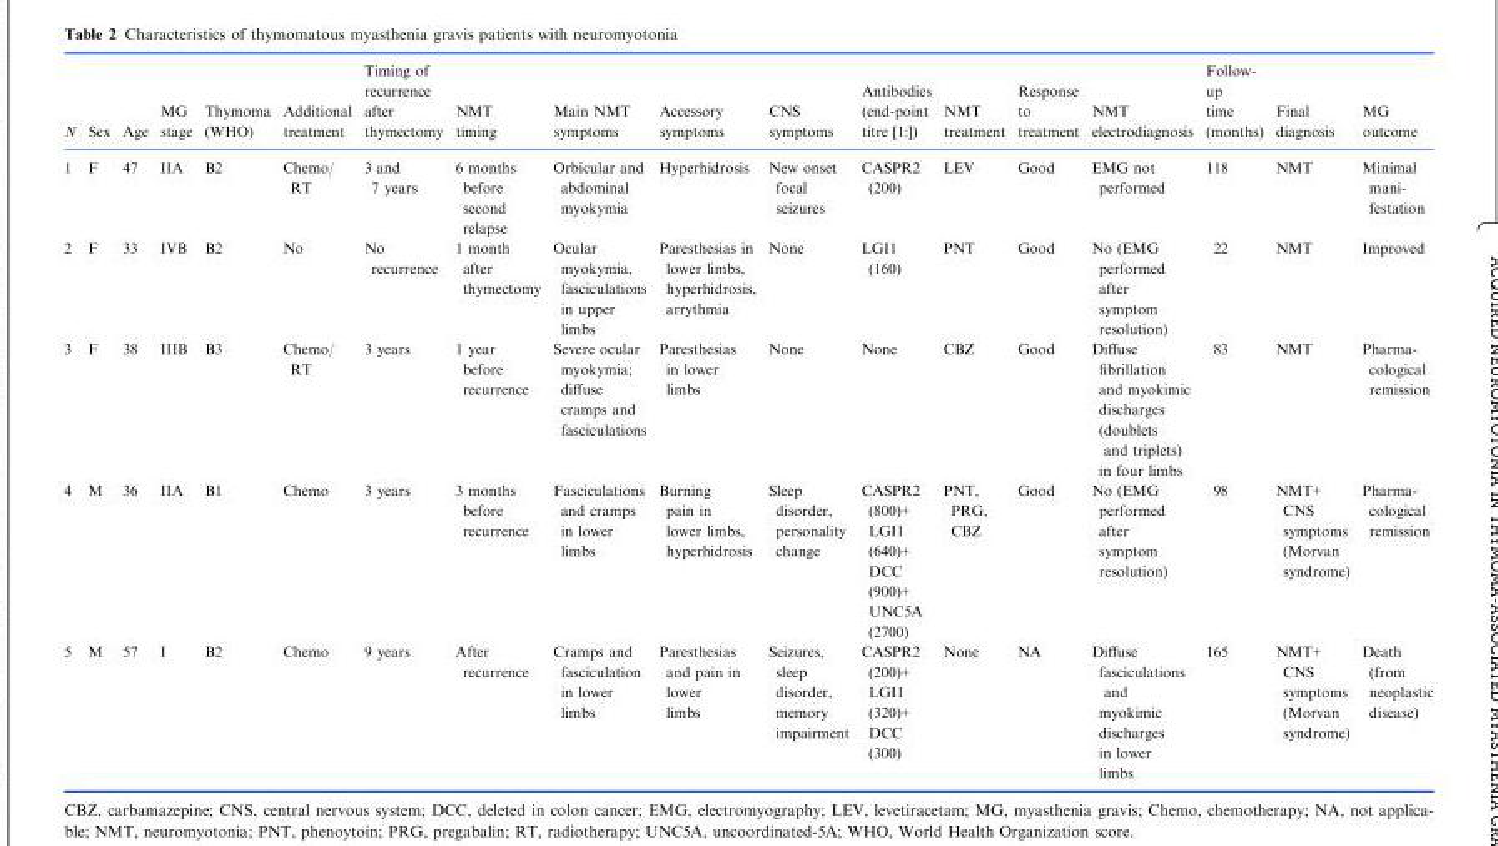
<table><thead><tr><td>N</td><td>Sex</td><td>Age</td><td>MG stage</td><td>Thymoma (WHO)</td><td>Additional treatment</td><td>Timing of recurrence after thymectomy</td><td>NMT timing</td><td>Main NMT symptoms</td><td>Accessory symptoms</td><td>CNS symptoms</td><td>Antibodies (end-point titre [1:])</td><td>NMT treatment</td><td>Response to treatment</td><td>NMT electrodiagnosis</td><td>Follow- up time (months)</td><td>Final diagnosis</td><td>MG outcome</td></tr></thead><tbody><tr><td>1</td><td>F</td><td>47</td><td>IIA</td><td>B2</td><td>Chemo/ RT</td><td>3 and 7 years</td><td>6 months before second relapse</td><td>Orbicular and abdominal myokymia</td><td>Hyperhidrosis</td><td>New onset focal seizures</td><td>CASPR2 (200)</td><td>LEV</td><td>Good</td><td>EMG not performed</td><td>118</td><td>NMT</td><td>Minimal mani- festation</td></tr><tr><td>2</td><td>F</td><td>33</td><td>IVB</td><td>B2</td><td>No</td><td>No recurrence</td><td>1 month after thymectomy</td><td>Ocular myokymia, fasciculations in upper limbs</td><td>Paresthesias in lower limbs, hyperhidrosis, arrythmia</td><td>None</td><td>LGI1 (160)</td><td>PNT</td><td>Good</td><td>No (EMG performed after symptom resolution)</td><td>22</td><td>NMT</td><td>Improved</td></tr><tr><td>3</td><td>F</td><td>38</td><td>IIIB</td><td>B3</td><td>Chemo/ RT</td><td>3 years</td><td>1 year before recurrence</td><td>Severe ocular myokymia; diffuse cramps and fasciculations</td><td>Paresthesias in lower limbs</td><td>None</td><td>None</td><td>CBZ</td><td>Good</td><td>Diffuse fibrillation and myokimic discharges (doublets and triplets) in four limbs</td><td>83</td><td>NMT</td><td>Pharma- cological remission</td></tr><tr><td>4</td><td>M</td><td>36</td><td>IIA</td><td>B1</td><td>Chemo</td><td>3 years</td><td>3 months before recurrence</td><td>Fasciculations and cramps in lower limbs</td><td>Burning pain in lower limbs, hyperhidrosis</td><td>Sleep disorder, personality change</td><td>CASPR2 (800)+ LGI1 (640)+ DCC (900)+ UNC5A (2700)</td><td>PNT, PRG, CBZ</td><td>Good</td><td>No (EMG performed after symptom resolution)</td><td>98</td><td>NMT+ CNS symptoms (Morvan syndrome)</td><td>Pharma- cological remission</td></tr><tr><td>5</td><td>M</td><td>57</td><td>I</td><td>B2</td><td>Chemo</td><td>9 years</td><td>After recurrence</td><td>Cramps and fasciculation in lower limbs</td><td>Paresthesias and pain in lower limbs</td><td>Seizures, sleep disorder, memory impairment</td><td>CASPR2 (200)+ LGI1 (320)+ DCC (300)</td><td>None</td><td>NA</td><td>Diffuse fasciculations and myokimic discharges in lower limbs</td><td>165</td><td>NMT+ CNS symptoms (Morvan syndrome)</td><td>Death (from neoplastic disease)</td></tr></tbody></table>